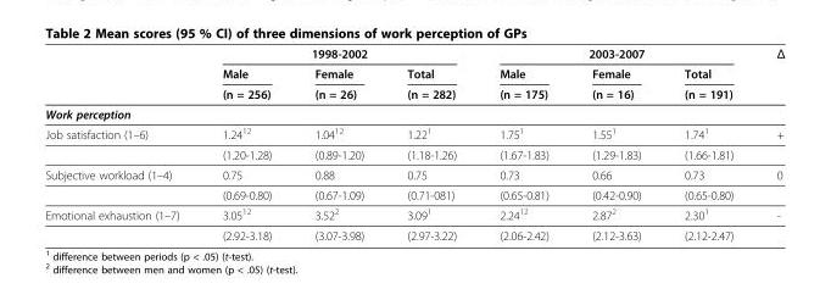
<table><thead><tr><td rowspan="3"></td><td colspan="3">1998-2002</td><td colspan="3">2003-2007</td><td rowspan="3">Δ</td></tr><tr><td rowspan="2">Male (n = 256)</td><td rowspan="2">Female (n = 26)</td><td rowspan="2">Total (n = 282)</td><td rowspan="2">Male (n = 175)</td><td rowspan="2">Female (n = 16)</td><td rowspan="2">Total (n = 191)</td></tr><tr></tr></thead><tbody><tr><td colspan="8">Work perception</td></tr><tr><td rowspan="2">Job satisfaction (1–6)</td><td>1.24<sup>12</sup></td><td>1.04<sup>12</sup></td><td>1.22<sup>1</sup></td><td>1.75<sup>1</sup></td><td>1.55<sup>1</sup></td><td>1.74<sup>1</sup></td><td>+</td></tr><tr><td>(1.20-1.28)</td><td>(0.89-1.20)</td><td>(1.18-1.26)</td><td>(1.67-1.83)</td><td>(1.29-1.83)</td><td>(1.66-1.81)</td><td></td></tr><tr><td rowspan="2">Subjective workload (1–4)</td><td>0.75</td><td>0.88</td><td>0.75</td><td>0.73</td><td>0.66</td><td>0.73</td><td>0</td></tr><tr><td>(0.69-0.80)</td><td>(0.67-1.09)</td><td>(0.71-081)</td><td>(0.65-0.81)</td><td>(0.42-0.90)</td><td>(0.65-0.80)</td><td></td></tr><tr><td rowspan="2">Emotional exhaustion (1–7)</td><td>3.05<sup>12</sup></td><td>3.52<sup>2</sup></td><td>3.09<sup>1</sup></td><td>2.24<sup>12</sup></td><td>2.87<sup>2</sup></td><td>2.30<sup>1</sup></td><td>-</td></tr><tr><td>(2.92-3.18)</td><td>(3.07-3.98)</td><td>(2.97-3.22)</td><td>(2.06-2.42)</td><td>(2.12-3.63)</td><td>(2.12-2.47)</td><td></td></tr></tbody></table>